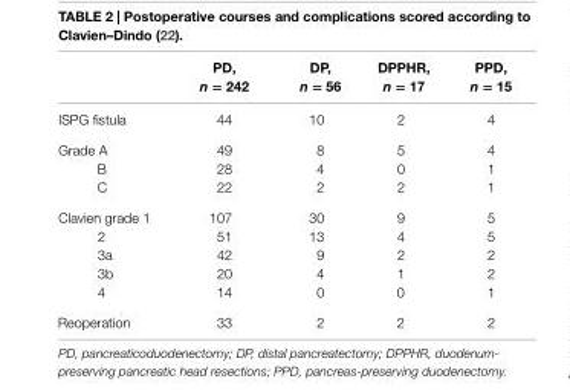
<table><thead><tr><td></td><td>PD, n = 242</td><td>DP, n = 56</td><td>DPPhr, n = 17</td><td>PPD, n = 15</td></tr></thead><tbody><tr><td>ISPG fistula</td><td>44</td><td>10</td><td>2</td><td>4</td></tr><tr><td>Grade A</td><td>49</td><td>8</td><td>5</td><td>4</td></tr><tr><td>B</td><td>28</td><td>4</td><td>0</td><td>1</td></tr><tr><td>C</td><td>22</td><td>2</td><td>2</td><td>1</td></tr><tr><td>Clavien grade 1</td><td>107</td><td>30</td><td>9</td><td>5</td></tr><tr><td>2</td><td>51</td><td>13</td><td>4</td><td>5</td></tr><tr><td>3a</td><td>42</td><td>9</td><td>2</td><td>2</td></tr><tr><td>3b</td><td>20</td><td>4</td><td>1</td><td>2</td></tr><tr><td>4</td><td>14</td><td>0</td><td>0</td><td>1</td></tr><tr><td>Reoperation</td><td>33</td><td>2</td><td>2</td><td>2</td></tr></tbody></table>